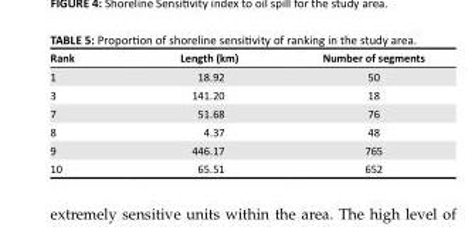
<table><thead><tr><td>Rank</td><td>Length (km)</td><td>Number of segments</td></tr></thead><tbody><tr><td>1</td><td>18.92</td><td>50</td></tr><tr><td>3</td><td>141.20</td><td>18</td></tr><tr><td>7</td><td>51.68</td><td>76</td></tr><tr><td>8</td><td>4.37</td><td>48</td></tr><tr><td>9</td><td>446.17</td><td>765</td></tr><tr><td>10</td><td>65.51</td><td>652</td></tr></tbody></table>